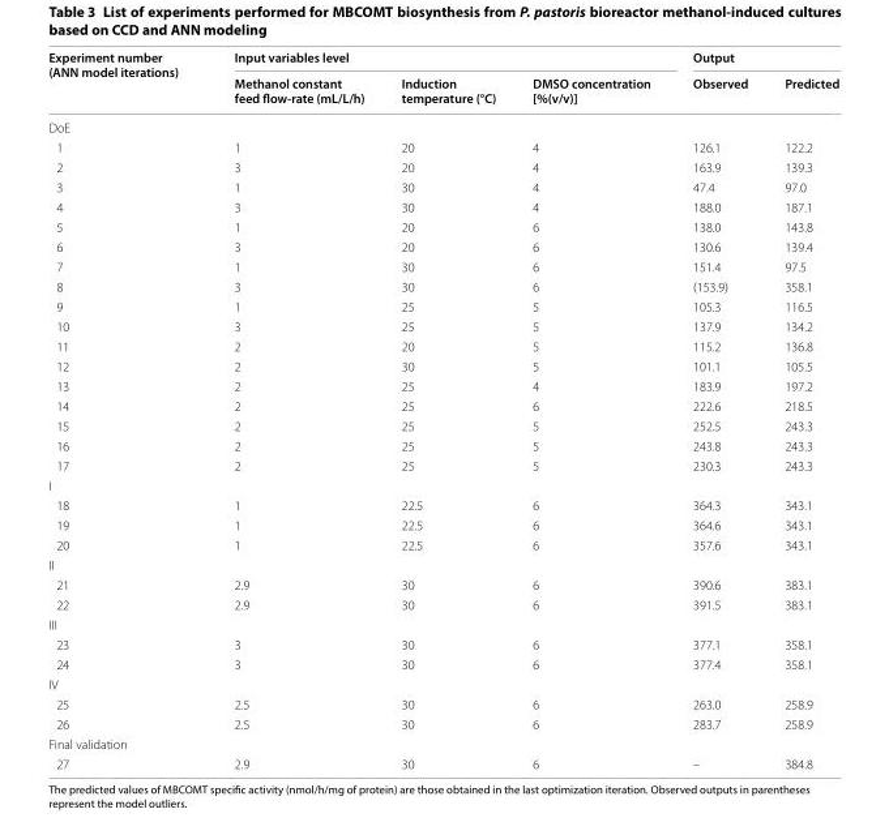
<table><thead><tr><td rowspan="2">Experiment number (ANN model iterations)</td><td colspan="3">Input variables level</td><td colspan="2">Output</td></tr><tr><td>Methanol constant feed flow‑rate (mL/L/h)</td><td>Induction temperature (°C)</td><td>DMSO concentration [%(v/v)]</td><td>Observed</td><td>Predicted</td></tr></thead><tbody><tr><td colspan="6">DoE</td></tr><tr><td>1</td><td>1</td><td>20</td><td>4</td><td>126.1</td><td>122.2</td></tr><tr><td>2</td><td>3</td><td>20</td><td>4</td><td>163.9</td><td>139.3</td></tr><tr><td>3</td><td>1</td><td>30</td><td>4</td><td>47.4</td><td>97.0</td></tr><tr><td>4</td><td>3</td><td>30</td><td>4</td><td>188.0</td><td>187.1</td></tr><tr><td>5</td><td>1</td><td>20</td><td>6</td><td>138.0</td><td>143.8</td></tr><tr><td>6</td><td>3</td><td>20</td><td>6</td><td>130.6</td><td>139.4</td></tr><tr><td>7</td><td>1</td><td>30</td><td>6</td><td>151.4</td><td>97.5</td></tr><tr><td>8</td><td>3</td><td>30</td><td>6</td><td>(153.9)</td><td>358.1</td></tr><tr><td>9</td><td>1</td><td>25</td><td>5</td><td>105.3</td><td>116.5</td></tr><tr><td>10</td><td>3</td><td>25</td><td>5</td><td>137.9</td><td>134.2</td></tr><tr><td>11</td><td>2</td><td>20</td><td>5</td><td>115.2</td><td>136.8</td></tr><tr><td>12</td><td>2</td><td>30</td><td>5</td><td>101.1</td><td>105.5</td></tr><tr><td>13</td><td>2</td><td>25</td><td>4</td><td>183.9</td><td>197.2</td></tr><tr><td>14</td><td>2</td><td>25</td><td>6</td><td>222.6</td><td>218.5</td></tr><tr><td>15</td><td>2</td><td>25</td><td>5</td><td>252.5</td><td>243.3</td></tr><tr><td>16</td><td>2</td><td>25</td><td>5</td><td>243.8</td><td>243.3</td></tr><tr><td>17</td><td>2</td><td>25</td><td>5</td><td>230.3</td><td>243.3</td></tr><tr><td colspan="6">I</td></tr><tr><td>18</td><td>1</td><td>22.5</td><td>6</td><td>364.3</td><td>343.1</td></tr><tr><td>19</td><td>1</td><td>22.5</td><td>6</td><td>364.6</td><td>343.1</td></tr><tr><td>20</td><td>1</td><td>22.5</td><td>6</td><td>357.6</td><td>343.1</td></tr><tr><td colspan="6">II</td></tr><tr><td>21</td><td>2.9</td><td>30</td><td>6</td><td>390.6</td><td>383.1</td></tr><tr><td>22</td><td>2.9</td><td>30</td><td>6</td><td>391.5</td><td>383.1</td></tr><tr><td colspan="6">III</td></tr><tr><td>23</td><td>3</td><td>30</td><td>6</td><td>377.1</td><td>358.1</td></tr><tr><td>24</td><td>3</td><td>30</td><td>6</td><td>377.4</td><td>358.1</td></tr><tr><td colspan="6">IV</td></tr><tr><td>25</td><td>2.5</td><td>30</td><td>6</td><td>263.0</td><td>258.9</td></tr><tr><td>26</td><td>2.5</td><td>30</td><td>6</td><td>283.7</td><td>258.9</td></tr><tr><td colspan="6">Final validation</td></tr><tr><td>27</td><td>2.9</td><td>30</td><td>6</td><td>–</td><td>384.8</td></tr></tbody></table>